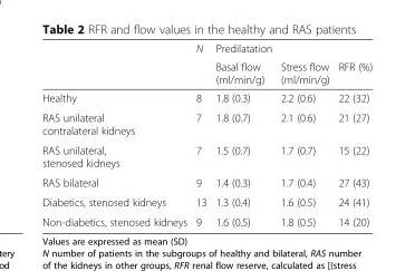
<table><thead><tr><td rowspan="2"></td><td rowspan="2">N</td><td rowspan="2">Predilatation Basal flow (ml/min/g)</td><td rowspan="2">Stress flow (ml/min/g)</td><td rowspan="2">RFR (%)</td></tr><tr></tr></thead><tbody><tr><td>Healthy</td><td>8</td><td>1.8 (0.3)</td><td>2.2 (0.6)</td><td>22 (32)</td></tr><tr><td>RAS unilateral contralateral kidneys</td><td>7</td><td>1.8 (0.7)</td><td>2.1 (0.6)</td><td>21 (27)</td></tr><tr><td>RAS unilateral, stenosed kidneys</td><td>7</td><td>1.5 (0.7)</td><td>1.7 (0.7)</td><td>15 (22)</td></tr><tr><td>RAS bilateral</td><td>9</td><td>1.4 (0.3)</td><td>1.7 (0.4)</td><td>27 (43)</td></tr><tr><td>Diabetics, stenosed kidneys</td><td>13</td><td>1.3 (0.4)</td><td>1.6 (0.5)</td><td>24 (41)</td></tr><tr><td>Non-diabetics, stenosed kidneys</td><td>9</td><td>1.6 (0.5)</td><td>1.8 (0.5)</td><td>14 (20)</td></tr></tbody></table>